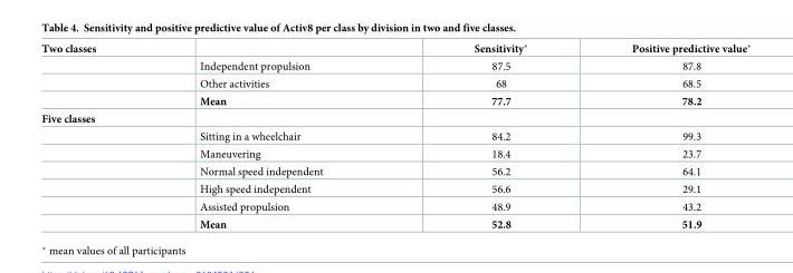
<table><thead><tr><td>Two classes</td><td></td><td>Sensitivity*</td><td>Positive predictive value*</td></tr></thead><tbody><tr><td></td><td>Independent propulsion</td><td>87.5</td><td>87.8</td></tr><tr><td></td><td>Other activities</td><td>68</td><td>68.5</td></tr><tr><td></td><td>Mean</td><td>77.7</td><td>78.2</td></tr><tr><td colspan="4">Five classes</td></tr><tr><td></td><td>Sitting in a wheelchair</td><td>84.2</td><td>99.3</td></tr><tr><td></td><td>Maneuvering</td><td>18.4</td><td>23.7</td></tr><tr><td></td><td>Normal speed independent</td><td>56.2</td><td>64.1</td></tr><tr><td></td><td>High speed independent</td><td>56.6</td><td>29.1</td></tr><tr><td></td><td>Assisted propulsion</td><td>48.9</td><td>43.2</td></tr><tr><td></td><td>Mean</td><td>52.8</td><td>51.9</td></tr></tbody></table>